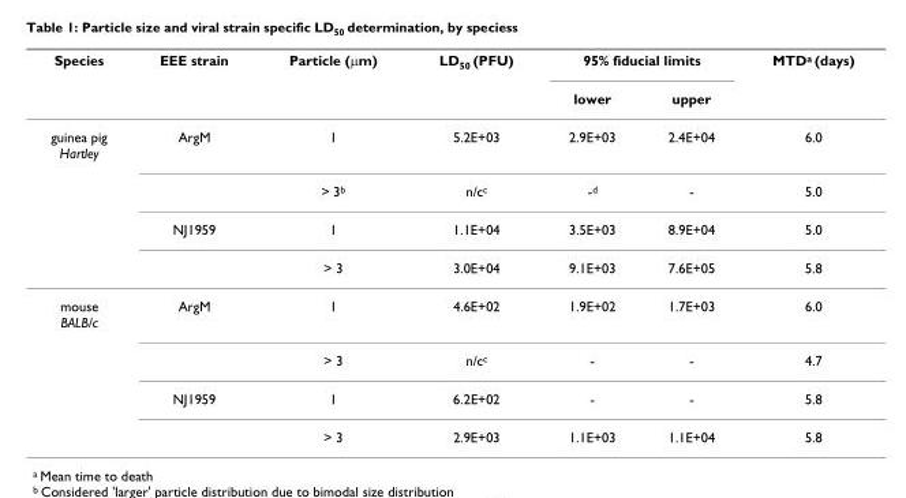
<table><thead><tr><td rowspan="2">Species</td><td rowspan="2">EEE strain</td><td rowspan="2">Particle (μm)</td><td rowspan="2">LD<sub>50</sub> (PFU)</td><td colspan="2">95% fiducial limits</td><td rowspan="2">MTD<sup>a</sup> (days)</td></tr><tr><td>lower</td><td>upper</td></tr></thead><tbody><tr><td rowspan="4">guinea pig Hartley</td><td>ArgM</td><td>1</td><td>5.2E+03</td><td>2.9E+03</td><td>2.4E+04</td><td>6.0</td></tr><tr><td></td><td>&gt; 3<sup>b</sup></td><td>n/c<sup>c</sup></td><td>-<sup>d</sup></td><td>-</td><td>5.0</td></tr><tr><td>NJ1959</td><td>1</td><td>1.1E+04</td><td>3.5E+03</td><td>8.9E+04</td><td>5.0</td></tr><tr><td></td><td>&gt; 3</td><td>3.0E+04</td><td>9.1E+03</td><td>7.6E+05</td><td>5.8</td></tr><tr><td rowspan="4">mouse BALB/c</td><td>ArgM</td><td>1</td><td>4.6E+02</td><td>1.9E+02</td><td>1.7E+03</td><td>6.0</td></tr><tr><td></td><td>&gt; 3</td><td>n/c<sup>c</sup></td><td>-</td><td>-</td><td>4.7</td></tr><tr><td>NJ1959</td><td>1</td><td>6.2E+02</td><td>-</td><td>-</td><td>5.8</td></tr><tr><td></td><td>&gt; 3</td><td>2.9E+03</td><td>1.1E+03</td><td>1.1E+04</td><td>5.8</td></tr></tbody></table>